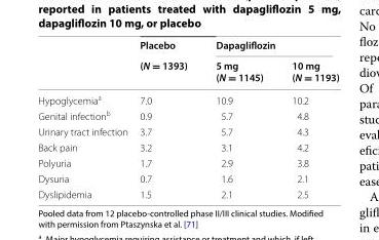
<table><thead><tr><td rowspan="2"></td><td rowspan="2">Placebo (N = 1393)</td><td colspan="2">Dapagliflozin</td></tr><tr><td>5 mg (N = 1145)</td><td>10 mg (N = 1193)</td></tr></thead><tbody><tr><td>Hypoglycemia<sup>a</sup></td><td>7.0</td><td>10.9</td><td>10.2</td></tr><tr><td>Genital infection<sup>b</sup></td><td>0.9</td><td>5.7</td><td>4.8</td></tr><tr><td>Urinary tract infection</td><td>3.7</td><td>5.7</td><td>4.3</td></tr><tr><td>Back pain</td><td>3.2</td><td>3.1</td><td>4.2</td></tr><tr><td>Polyuria</td><td>1.7</td><td>2.9</td><td>3.8</td></tr><tr><td>Dysuria</td><td>0.7</td><td>1.6</td><td>2.1</td></tr><tr><td>Dyslipidemia</td><td>1.5</td><td>2.1</td><td>2.5</td></tr></tbody></table>